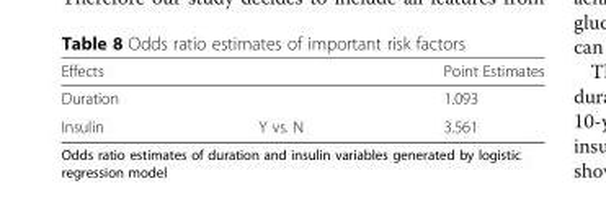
<table><thead><tr><td colspan="2">Effects</td><td rowspan="2">Point Estimates 1.093</td></tr><tr><td>Duration</td><td></td></tr></thead><tbody><tr><td>Insulin</td><td>Y vs. N</td><td>3.561</td></tr></tbody></table>